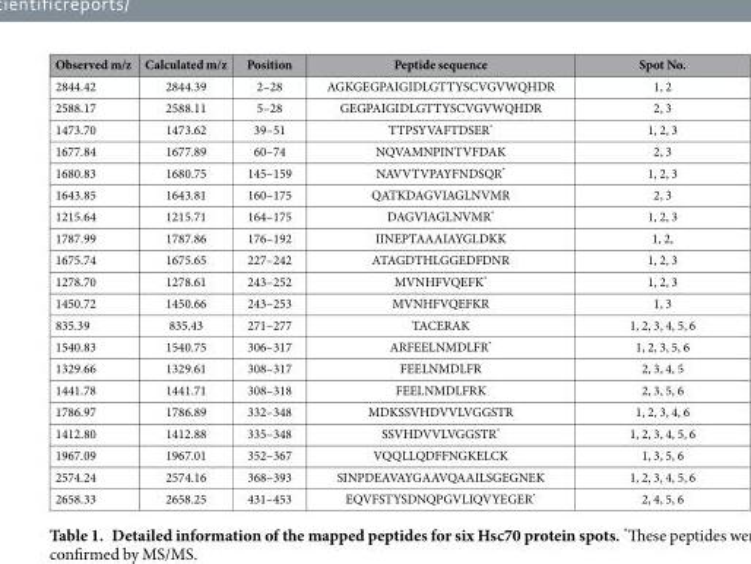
<table><thead><tr><td>Observed m/z</td><td>Calculated m/z</td><td>Position</td><td>Peptide sequence</td><td>Spot No.</td></tr></thead><tbody><tr><td>2844.42</td><td>2844.39</td><td>2–28</td><td>AGKGEGPAIGIDLGTTYSCVGVWQHDR</td><td>1, 2</td></tr><tr><td>2588.17</td><td>2588.11</td><td>5–28</td><td>GEGPAIGIDLGTTYSCVGVWQHDR</td><td>2, 3</td></tr><tr><td>1473.70</td><td>1473.62</td><td>39–51</td><td>TTPSYVAFTDSER*</td><td>1, 2, 3</td></tr><tr><td>1677.84</td><td>1677.89</td><td>60–74</td><td>NQVAMNPINTVFDAK</td><td>2, 3</td></tr><tr><td>1680.83</td><td>1680.75</td><td>145–159</td><td>NAVVTVPAYFNDSQR*</td><td>1, 2, 3</td></tr><tr><td>1643.85</td><td>1643.81</td><td>160–175</td><td>QATKDAGVIAGLNVMR</td><td>2, 3</td></tr><tr><td>1215.64</td><td>1215.71</td><td>164–175</td><td>DAGVIAGLNVMR*</td><td>1, 2, 3</td></tr><tr><td>1787.99</td><td>1787.86</td><td>176–192</td><td>IINEPTAAAIAYGLDKK</td><td>1, 2,</td></tr><tr><td>1675.74</td><td>1675.65</td><td>227–242</td><td>ATAGDTHLGGEDFDNR</td><td>1, 2, 3</td></tr><tr><td>1278.70</td><td>1278.61</td><td>243–252</td><td>MVNHFVQEFK*</td><td>1, 2, 3</td></tr><tr><td>1450.72</td><td>1450.66</td><td>243–253</td><td>MVNHFVQEFKR</td><td>1, 3</td></tr><tr><td>835.39</td><td>835.43</td><td>271–277</td><td>TACERAK</td><td>1, 2, 3, 4, 5, 6</td></tr><tr><td>1540.83</td><td>1540.75</td><td>306–317</td><td>ARFEELNMDLFR*</td><td>1, 2, 3, 5, 6</td></tr><tr><td>1329.66</td><td>1329.61</td><td>308–317</td><td>FEELNMDLFR</td><td>2, 3, 4, 5</td></tr><tr><td>1441.78</td><td>1441.71</td><td>308–318</td><td>FEELNMDLFRK</td><td>2, 3, 5, 6</td></tr><tr><td>1786.97</td><td>1786.89</td><td>332–348</td><td>MDKSSVHDVVLVGGSTR</td><td>1, 2, 3, 4, 6</td></tr><tr><td>1412.80</td><td>1412.88</td><td>335–348</td><td>SSVHDVVLVGGSTR*</td><td>1, 2, 3, 4, 5, 6</td></tr><tr><td>1967.09</td><td>1967.01</td><td>352–367</td><td>VQQLLQDFFNGKELCK</td><td>1, 3, 5, 6</td></tr><tr><td>2574.24</td><td>2574.16</td><td>368–393</td><td>SINPDEAVAYGAAVQAAILSGEGNEK</td><td>1, 2, 3, 4, 5, 6</td></tr><tr><td>2658.33</td><td>2658.25</td><td>431–453</td><td>EQVFSTYSDNQPGVLIQVYEGER*</td><td>2, 4, 5, 6</td></tr></tbody></table>